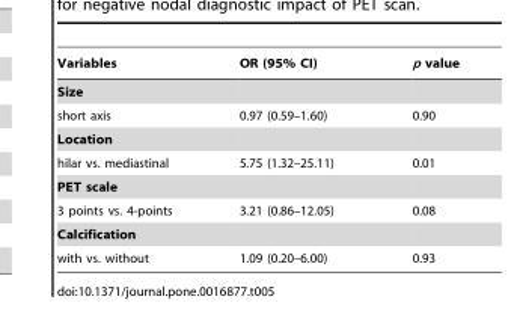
<table><thead><tr><td>Variables</td><td>OR (95% CI)</td><td>p value</td></tr></thead><tbody><tr><td colspan="3">Size</td></tr><tr><td>short axis</td><td>0.97 (0.59–1.60)</td><td>0.90</td></tr><tr><td colspan="3">Location</td></tr><tr><td>hilar vs. mediastinal</td><td>5.75 (1.32–25.11)</td><td>0.01</td></tr><tr><td colspan="3">PET scale</td></tr><tr><td>3 points vs. 4-points</td><td>3.21 (0.86–12.05)</td><td>0.08</td></tr><tr><td colspan="3">Calcification</td></tr><tr><td>with vs. without</td><td>1.09 (0.20–6.00)</td><td>0.93</td></tr></tbody></table>